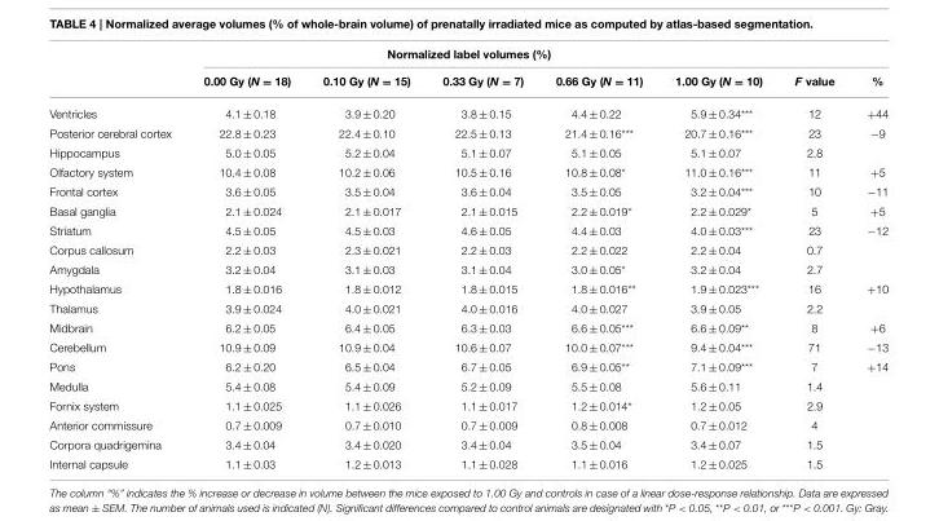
<table><thead><tr><td rowspan="2"></td><td colspan="7">Normalized label volumes (%)</td></tr><tr><td>0.00 Gy (N = 18)</td><td>0.10 Gy (N = 15)</td><td>0.33 Gy (N = 7)</td><td>0.66 Gy (N = 11)</td><td>1.00 Gy (N = 10)</td><td>F value</td><td>%</td></tr></thead><tbody><tr><td>Ventricles</td><td>4.1 ± 0.18</td><td>3.9 ± 0.20</td><td>3.8 ± 0.15</td><td>4.4 ± 0.22</td><td>5.9 ± 0.34***</td><td>12</td><td>+44</td></tr><tr><td>Posterior cerebral cortex</td><td>22.8 ± 0.23</td><td>22.4 ± 0.10</td><td>22.5 ± 0.13</td><td>21.4 ± 0.16***</td><td>20.7 ± 0.16***</td><td>23</td><td>−9</td></tr><tr><td>Hippocampus</td><td>5.0 ± 0.05</td><td>5.2 ± 0.04</td><td>5.1 ± 0.07</td><td>5.1 ± 0.05</td><td>5.1 ± 0.07</td><td>2.8</td><td></td></tr><tr><td>Olfactory system</td><td>10.4 ± 0.08</td><td>10.2 ± 0.06</td><td>10.5 ± 0.16</td><td>10.8 ± 0.08*</td><td>11.0 ± 0.16***</td><td>11</td><td>+5</td></tr><tr><td>Frontal cortex</td><td>3.6 ± 0.05</td><td>3.5 ± 0.04</td><td>3.6 ± 0.04</td><td>3.5 ± 0.05</td><td>3.2 ± 0.04***</td><td>10</td><td>−11</td></tr><tr><td>Basal ganglia</td><td>2.1 ± 0.024</td><td>2.1 ± 0.017</td><td>2.1 ± 0.015</td><td>2.2 ± 0.019*</td><td>2.2 ± 0.029*</td><td>5</td><td>+5</td></tr><tr><td>Striatum</td><td>4.5 ± 0.05</td><td>4.5 ± 0.03</td><td>4.6 ± 0.05</td><td>4.4 ± 0.03</td><td>4.0 ± 0.03***</td><td>23</td><td>−12</td></tr><tr><td>Corpus callosum</td><td>2.2 ± 0.03</td><td>2.3 ± 0.021</td><td>2.2 ± 0.03</td><td>2.2 ± 0.022</td><td>2.2 ± 0.04</td><td>0.7</td><td></td></tr><tr><td>Amygdala</td><td>3.2 ± 0.04</td><td>3.1 ± 0.03</td><td>3.1 ± 0.04</td><td>3.0 ± 0.05*</td><td>3.2 ± 0.04</td><td>2.7</td><td></td></tr><tr><td>Hypothalamus</td><td>1.8 ± 0.016</td><td>1.8 ± 0.012</td><td>1.8 ± 0.015</td><td>1.8 ± 0.016**</td><td>1.9 ± 0.023***</td><td>16</td><td>+10</td></tr><tr><td>Thalamus</td><td>3.9 ± 0.024</td><td>4.0 ± 0.021</td><td>4.0 ± 0.016</td><td>4.0 ± 0.027</td><td>3.9 ± 0.05</td><td>2.2</td><td></td></tr><tr><td>Midbrain</td><td>6.2 ± 0.05</td><td>6.4 ± 0.05</td><td>6.3 ± 0.03</td><td>6.6 ± 0.05***</td><td>6.6 ± 0.09**</td><td>8</td><td>+6</td></tr><tr><td>Cerebellum</td><td>10.9 ± 0.09</td><td>10.9 ± 0.04</td><td>10.6 ± 0.07</td><td>10.0 ± 0.07***</td><td>9.4 ± 0.04***</td><td>71</td><td>−13</td></tr><tr><td>Pons</td><td>6.2 ± 0.20</td><td>6.5 ± 0.04</td><td>6.7 ± 0.05</td><td>6.9 ± 0.05**</td><td>7.1 ± 0.09***</td><td>7</td><td>+14</td></tr><tr><td>Medulla</td><td>5.4 ± 0.08</td><td>5.4 ± 0.09</td><td>5.2 ± 0.09</td><td>5.5 ± 0.08</td><td>5.6 ± 0.11</td><td>1.4</td><td></td></tr><tr><td>Fornix system</td><td>1.1 ± 0.025</td><td>1.1 ± 0.026</td><td>1.1 ± 0.017</td><td>1.2 ± 0.014*</td><td>1.2 ± 0.05</td><td>2.9</td><td></td></tr><tr><td>Anterior commissure</td><td>0.7 ± 0.009</td><td>0.7 ± 0.010</td><td>0.7 ± 0.009</td><td>0.8 ± 0.008</td><td>0.7 ± 0.012</td><td>4</td><td></td></tr><tr><td>Corpora quadrigemina</td><td>3.4 ± 0.04</td><td>3.4 ± 0.020</td><td>3.4 ± 0.04</td><td>3.5 ± 0.04</td><td>3.4 ± 0.07</td><td>1.5</td><td></td></tr><tr><td>Internal capsule</td><td>1.1 ± 0.03</td><td>1.2 ± 0.013</td><td>1.1 ± 0.028</td><td>1.1 ± 0.016</td><td>1.2 ± 0.025</td><td>1.5</td><td></td></tr></tbody></table>